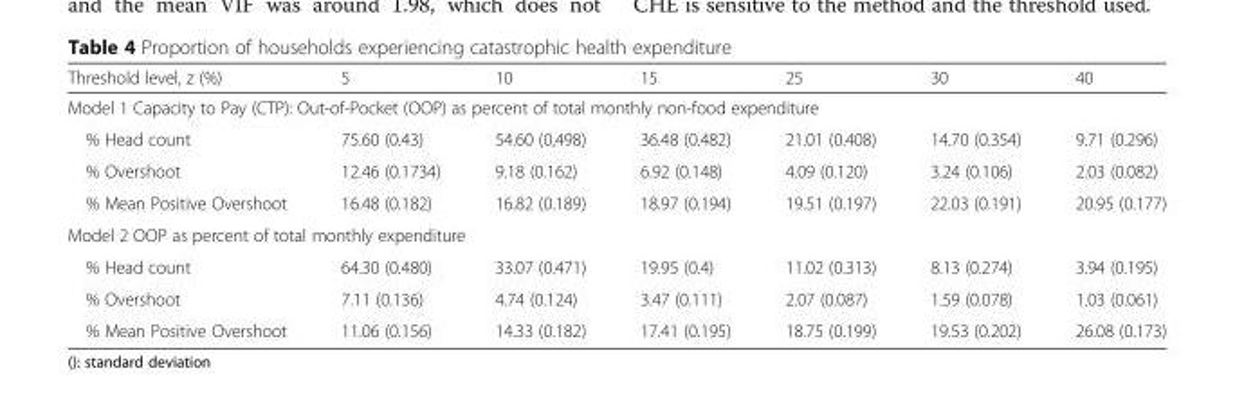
<table><thead><tr><td>Threshold level, z (%)</td><td>5</td><td>10</td><td>15</td><td>25</td><td>30</td><td>40</td></tr></thead><tbody><tr><td colspan="7">Model 1 Capacity to Pay (CTP): Out-of-Pocket (OOP) as percent of total monthly non-food expenditure</td></tr><tr><td>% Head count</td><td>75.60 (0.43)</td><td>54.60 (0,498)</td><td>36.48 (0.482)</td><td>21.01 (0.408)</td><td>14.70 (0.354)</td><td>9.71 (0.296)</td></tr><tr><td>% Overshoot</td><td>12.46 (0.1734)</td><td>9.18 (0.162)</td><td>6.92 (0.148)</td><td>4.09 (0.120)</td><td>3.24 (0.106)</td><td>2.03 (0.082)</td></tr><tr><td>% Mean Positive Overshoot</td><td>16.48 (0.182)</td><td>16.82 (0.189)</td><td>18.97 (0.194)</td><td>19.51 (0.197)</td><td>22.03 (0.191)</td><td>20.95 (0.177)</td></tr><tr><td colspan="7">Model 2 OOP as percent of total monthly expenditure</td></tr><tr><td>% Head count</td><td>64.30 (0.480)</td><td>33.07 (0.471)</td><td>19.95 (0.4)</td><td>11.02 (0.313)</td><td>8.13 (0.274)</td><td>3.94 (0.195)</td></tr><tr><td>% Overshoot</td><td>7.11 (0.136)</td><td>4.74 (0.124)</td><td>3.47 (0.111)</td><td>2.07 (0.087)</td><td>1.59 (0.078)</td><td>1.03 (0.061)</td></tr><tr><td>% Mean Positive Overshoot</td><td>11.06 (0.156)</td><td>14.33 (0.182)</td><td>17.41 (0.195)</td><td>18.75 (0.199)</td><td>19.53 (0.202)</td><td>26.08 (0.173)</td></tr></tbody></table>